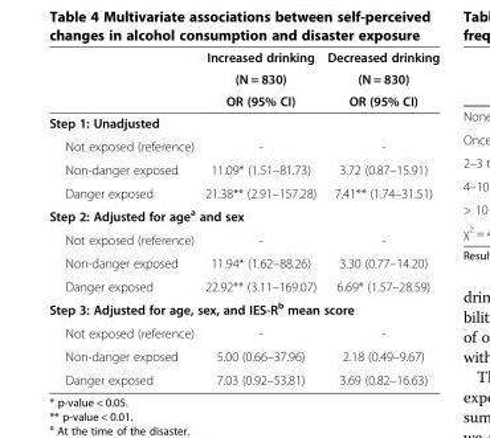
<table><thead><tr><td rowspan="3"></td><td rowspan="3">Increased drinking (N = 830) OR (95% CI)</td><td rowspan="3">Decreased drinking (N = 830) OR (95% CI)</td></tr><tr></tr><tr></tr></thead><tbody><tr><td colspan="3">Step 1: Unadjusted</td></tr><tr><td>Not exposed (reference)</td><td>-</td><td>-</td></tr><tr><td>Non-danger exposed</td><td>11.09* (1.51–81.73)</td><td>3.72 (0.87–15.91)</td></tr><tr><td>Danger exposed</td><td>21.38** (2.91–157.28)</td><td>7.41** (1.74–31.51)</td></tr><tr><td colspan="3">Step 2: Adjusted for age<sup>a</sup> and sex</td></tr><tr><td>Not exposed (reference)</td><td>-</td><td>-</td></tr><tr><td>Non-danger exposed</td><td>11.94* (1.62–88.26)</td><td>3.30 (0.77–14.20)</td></tr><tr><td>Danger exposed</td><td>22.92** (3.11–169.07)</td><td>6.69* (1.57–28.59)</td></tr><tr><td colspan="3">Step 3: Adjusted for age, sex, and IES-R<sup>b</sup> mean score</td></tr><tr><td>Not exposed (reference)</td><td>-</td><td>-</td></tr><tr><td>Non-danger exposed</td><td>5.00 (0.66–37.96)</td><td>2.18 (0.49–9.67)</td></tr><tr><td>Danger exposed</td><td>7.03 (0.92–53.81)</td><td>3.69 (0.82–16.63)</td></tr></tbody></table>